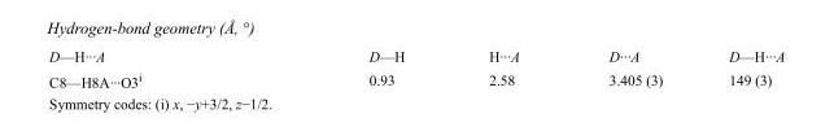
<table><tbody><tr><td>D—H···A</td><td>D—H</td><td>H···A</td><td>D···A</td><td>D—H···A</td></tr><tr><td>C8—H8A···O3<sup>i</sup></td><td>0.93</td><td>2.58</td><td>3.405 (3)</td><td>149 (3)</td></tr></tbody></table>